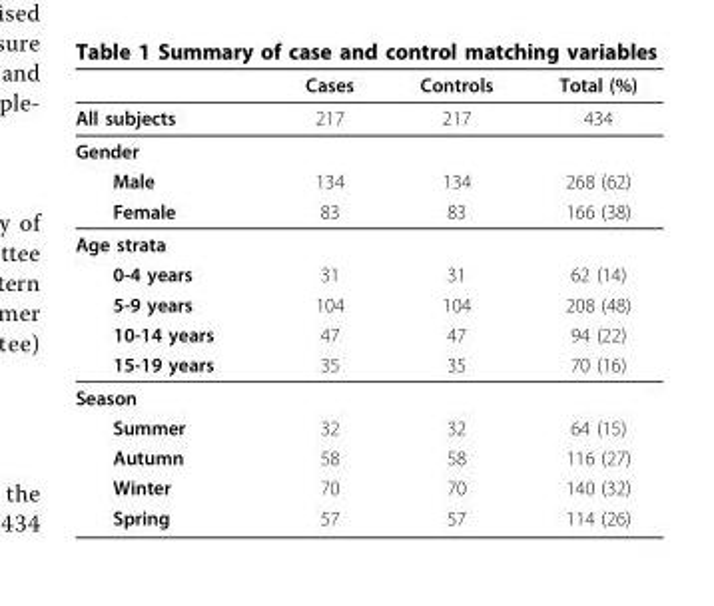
<table><thead><tr><td></td><td>Cases</td><td>Controls</td><td>Total (%)</td></tr></thead><tbody><tr><td>All subjects</td><td>217</td><td>217</td><td>434</td></tr><tr><td colspan="4">Gender</td></tr><tr><td>Male</td><td>134</td><td>134</td><td>268 (62)</td></tr><tr><td>Female</td><td>83</td><td>83</td><td>166 (38)</td></tr><tr><td colspan="4">Age strata</td></tr><tr><td>0-4 years</td><td>31</td><td>31</td><td>62 (14)</td></tr><tr><td>5-9 years</td><td>104</td><td>104</td><td>208 (48)</td></tr><tr><td>10-14 years</td><td>47</td><td>47</td><td>94 (22)</td></tr><tr><td>15-19 years</td><td>35</td><td>35</td><td>70 (16)</td></tr><tr><td colspan="4">Season</td></tr><tr><td>Summer</td><td>32</td><td>32</td><td>64 (15)</td></tr><tr><td>Autumn</td><td>58</td><td>58</td><td>116 (27)</td></tr><tr><td>Winter</td><td>70</td><td>70</td><td>140 (32)</td></tr><tr><td>Spring</td><td>57</td><td>57</td><td>114 (26)</td></tr></tbody></table>